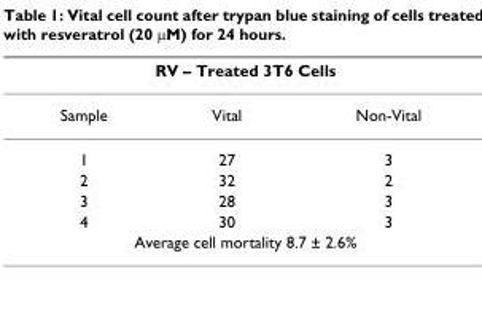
<table><thead><tr><td colspan="3">RV – Treated 3T6 Cells</td></tr><tr><td>Sample</td><td>Vital</td><td>Non-Vital</td></tr></thead><tbody><tr><td>1</td><td>27</td><td>3</td></tr><tr><td>2</td><td>32</td><td>2</td></tr><tr><td>3</td><td>28</td><td>3</td></tr><tr><td>4</td><td>30</td><td>3</td></tr><tr><td colspan="3">Average cell mortality 8.7 ± 2.6%</td></tr></tbody></table>